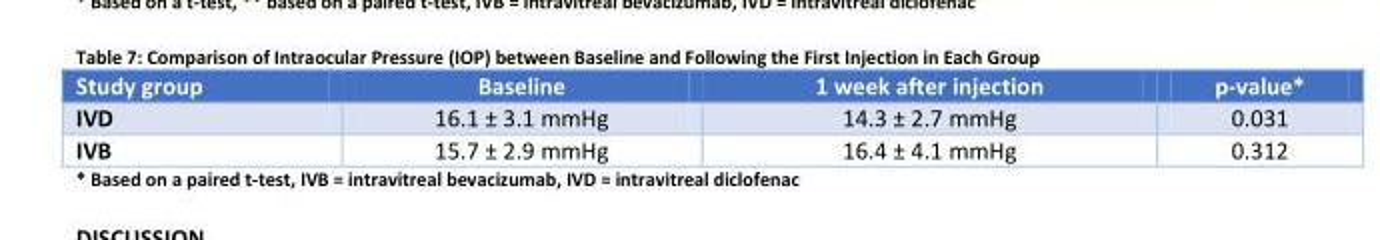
<table><thead><tr><td>Study group</td><td>Baseline</td><td>1 week after injection</td><td>p-value*</td></tr></thead><tbody><tr><td>IVD</td><td>16.1 ± 3.1 mmHg</td><td>14.3 ± 2.7 mmHg</td><td>0.031</td></tr><tr><td>IVB</td><td>15.7 ± 2.9 mmHg</td><td>16.4 ± 4.1 mmHg</td><td>0.312</td></tr></tbody></table>